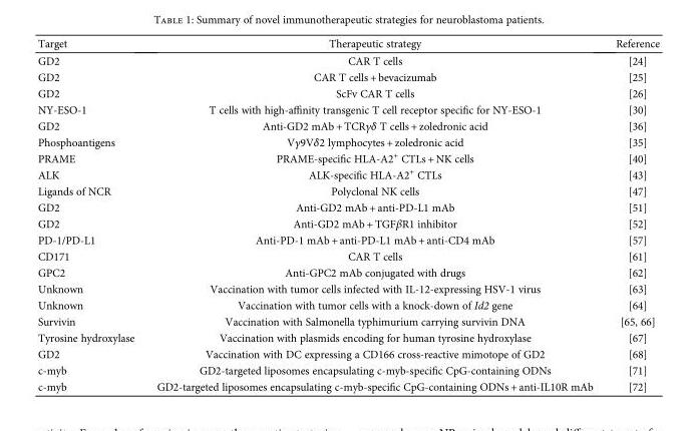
<table><thead><tr><td>Target</td><td>Therapeutic strategy</td><td>Reference</td></tr></thead><tbody><tr><td>GD2</td><td>CAR T cells</td><td>[24]</td></tr><tr><td>GD2</td><td>CAR T cells + bevacizumab</td><td>[25]</td></tr><tr><td>GD2</td><td>ScFv CAR T cells</td><td>[26]</td></tr><tr><td>NY-ESO-1</td><td>T cells with high-affinity transgenic T cell receptor specific for NY-ESO-1</td><td>[30]</td></tr><tr><td>GD2</td><td>Anti-GD2 mAb + TCRγδ T cells + zoledronic acid</td><td>[36]</td></tr><tr><td>Phosphoantigens</td><td>Vγ9Vδ2 lymphocytes + zoledronic acid</td><td>[35]</td></tr><tr><td>PRAME</td><td>PRAME-specific HLA-A2<sup>+</sup> CTLs + NK cells</td><td>[40]</td></tr><tr><td>ALK</td><td>ALK-specific HLA-A2<sup>+</sup> CTLs</td><td>[43]</td></tr><tr><td>Ligands of NCR</td><td>Polyclonal NK cells</td><td>[47]</td></tr><tr><td>GD2</td><td>Anti-GD2 mAb + anti-PD-L1 mAb</td><td>[51]</td></tr><tr><td>GD2</td><td>Anti-GD2 mAb + TGFβR1 inhibitor</td><td>[52]</td></tr><tr><td>PD-1/PD-L1</td><td>Anti-PD-1 mAb + anti-PD-L1 mAb + anti-CD4 mAb</td><td>[57]</td></tr><tr><td>CD171</td><td>CAR T cells</td><td>[61]</td></tr><tr><td>GPC2</td><td>Anti-GPC2 mAb conjugated with drugs</td><td>[62]</td></tr><tr><td>Unknown</td><td>Vaccination with tumor cells infected with IL-12-expressing HSV-1 virus</td><td>[63]</td></tr><tr><td>Unknown</td><td>Vaccination with tumor cells with a knock-down of Id2 gene</td><td>[64]</td></tr><tr><td>Survivin</td><td>Vaccination with Salmonella typhimurium carrying survivin DNA</td><td>[65, 66]</td></tr><tr><td>Tyrosine hydroxylase</td><td>Vaccination with plasmids encoding for human tyrosine hydroxylase</td><td>[67]</td></tr><tr><td>GD2</td><td>Vaccination with DC expressing a CD166 cross-reactive mimotope of GD2</td><td>[68]</td></tr><tr><td>c-myb</td><td>GD2-targeted liposomes encapsulating c-myb-specific CpG-containing ODNs</td><td>[71]</td></tr><tr><td>c-myb</td><td>GD2-targeted liposomes encapsulating c-myb-specific CpG-containing ODNs + anti-IL10R mAb</td><td>[72]</td></tr></tbody></table>